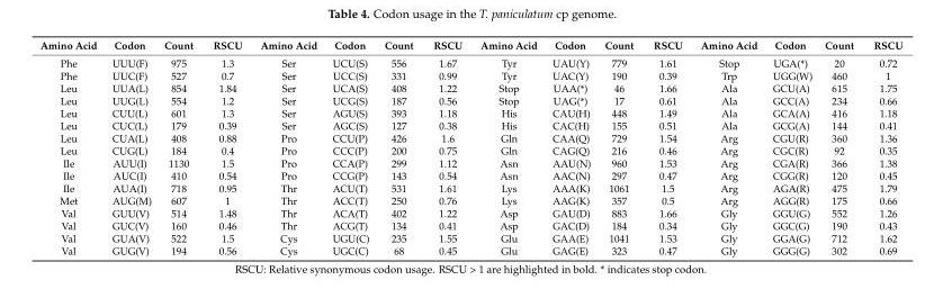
<table><thead><tr><td>Amino Acid</td><td>Codon</td><td>Count</td><td>RSCU</td><td>Amino Acid</td><td>Codon</td><td>Count</td><td>RSCU</td><td>Amino Acid</td><td>Codon</td><td>Count</td><td>RSCU</td><td>Amino Acid</td><td>Codon</td><td>Count</td><td>RSCU</td></tr></thead><tbody><tr><td>Phe</td><td>UUU(F)</td><td>975</td><td>1.3</td><td>Ser</td><td>UCU(S)</td><td>556</td><td>1.67</td><td>Tyr</td><td>UAU(Y)</td><td>779</td><td>1.61</td><td>Stop</td><td>UGA(*)</td><td>20</td><td>0.72</td></tr><tr><td>Phe</td><td>UUC(F)</td><td>527</td><td>0.7</td><td>Ser</td><td>UCC(S)</td><td>331</td><td>0.99</td><td>Tyr</td><td>UAC(Y)</td><td>190</td><td>0.39</td><td>Trp</td><td>UGG(W)</td><td>460</td><td>1</td></tr><tr><td>Leu</td><td>UUA(L)</td><td>854</td><td>1.84</td><td>Ser</td><td>UCA(S)</td><td>408</td><td>1.22</td><td>Stop</td><td>UAA(*)</td><td>46</td><td>1.66</td><td>Ala</td><td>GCU(A)</td><td>615</td><td>1.75</td></tr><tr><td>Leu</td><td>UUG(L)</td><td>554</td><td>1.2</td><td>Ser</td><td>UCG(S)</td><td>187</td><td>0.56</td><td>Stop</td><td>UAG(*)</td><td>17</td><td>0.61</td><td>Ala</td><td>GCC(A)</td><td>234</td><td>0.66</td></tr><tr><td>Leu</td><td>CUU(L)</td><td>601</td><td>1.3</td><td>Ser</td><td>AGU(S)</td><td>393</td><td>1.18</td><td>His</td><td>CAU(H)</td><td>448</td><td>1.49</td><td>Ala</td><td>GCA(A)</td><td>416</td><td>1.18</td></tr><tr><td>Leu</td><td>CUC(L)</td><td>179</td><td>0.39</td><td>Ser</td><td>AGC(S)</td><td>127</td><td>0.38</td><td>His</td><td>CAC(H)</td><td>155</td><td>0.51</td><td>Ala</td><td>GCG(A)</td><td>144</td><td>0.41</td></tr><tr><td>Leu</td><td>CUA(L)</td><td>408</td><td>0.88</td><td>Pro</td><td>CCU(P)</td><td>426</td><td>1.6</td><td>Gln</td><td>CAA(Q)</td><td>729</td><td>1.54</td><td>Arg</td><td>CGU(R)</td><td>360</td><td>1.36</td></tr><tr><td>Leu</td><td>CUG(L)</td><td>184</td><td>0.4</td><td>Pro</td><td>CCC(P)</td><td>200</td><td>0.75</td><td>Gln</td><td>CAG(Q)</td><td>216</td><td>0.46</td><td>Arg</td><td>CGC(R)</td><td>92</td><td>0.35</td></tr><tr><td>Ile</td><td>AUU(I)</td><td>1130</td><td>1.5</td><td>Pro</td><td>CCA(P)</td><td>299</td><td>1.12</td><td>Asn</td><td>AAU(N)</td><td>960</td><td>1.53</td><td>Arg</td><td>CGA(R)</td><td>366</td><td>1.38</td></tr><tr><td>Ile</td><td>AUC(I)</td><td>410</td><td>0.54</td><td>Pro</td><td>CCG(P)</td><td>143</td><td>0.54</td><td>Asn</td><td>AAC(N)</td><td>297</td><td>0.47</td><td>Arg</td><td>CGG(R)</td><td>120</td><td>0.45</td></tr><tr><td>Ile</td><td>AUA(I)</td><td>718</td><td>0.95</td><td>Thr</td><td>ACU(T)</td><td>531</td><td>1.61</td><td>Lys</td><td>AAA(K)</td><td>1061</td><td>1.5</td><td>Arg</td><td>AGA(R)</td><td>475</td><td>1.79</td></tr><tr><td>Met</td><td>AUG(M)</td><td>607</td><td>1</td><td>Thr</td><td>ACC(T)</td><td>250</td><td>0.76</td><td>Lys</td><td>AAG(K)</td><td>357</td><td>0.5</td><td>Arg</td><td>AGG(R)</td><td>175</td><td>0.66</td></tr><tr><td>Val</td><td>GUU(V)</td><td>514</td><td>1.48</td><td>Thr</td><td>ACA(T)</td><td>402</td><td>1.22</td><td>Asp</td><td>GAU(D)</td><td>883</td><td>1.66</td><td>Gly</td><td>GGU(G)</td><td>552</td><td>1.26</td></tr><tr><td>Val</td><td>GUC(V)</td><td>160</td><td>0.46</td><td>Thr</td><td>ACG(T)</td><td>134</td><td>0.41</td><td>Asp</td><td>GAC(D)</td><td>184</td><td>0.34</td><td>Gly</td><td>GGC(G)</td><td>190</td><td>0.43</td></tr><tr><td>Val</td><td>GUA(V)</td><td>522</td><td>1.5</td><td>Cys</td><td>UGU(C)</td><td>235</td><td>1.55</td><td>Glu</td><td>GAA(E)</td><td>1041</td><td>1.53</td><td>Gly</td><td>GGA(G)</td><td>712</td><td>1.62</td></tr><tr><td>Val</td><td>GUG(V)</td><td>194</td><td>0.56</td><td>Cys</td><td>UGC(C)</td><td>68</td><td>0.45</td><td>Glu</td><td>GAG(E)</td><td>323</td><td>0.47</td><td>Gly</td><td>GGG(G)</td><td>302</td><td>0.69</td></tr></tbody></table>